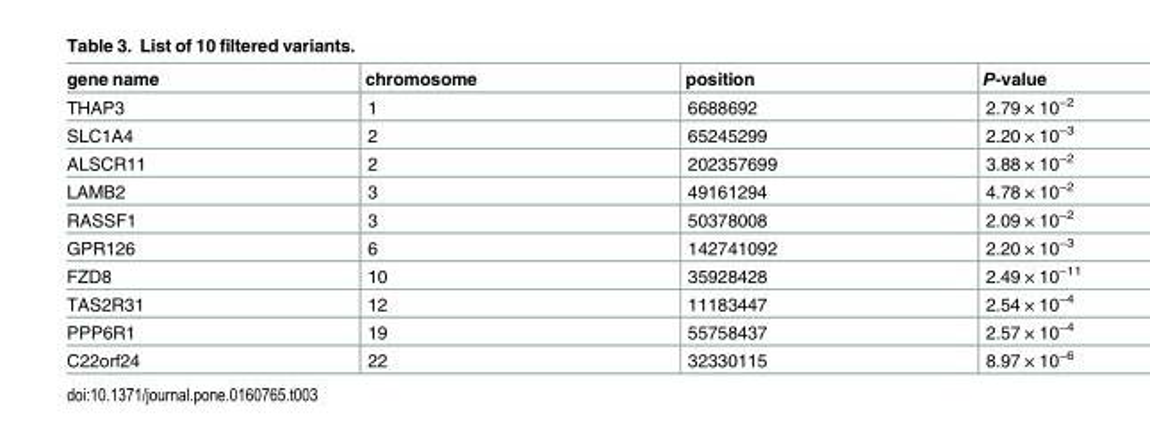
<table><thead><tr><td>gene name</td><td>chromosome</td><td>position</td><td>P-value</td></tr></thead><tbody><tr><td>THAP3</td><td>1</td><td>6688692</td><td>2.79 × 10<sup>−2</sup></td></tr><tr><td>SLC1A4</td><td>2</td><td>65245299</td><td>2.20 × 10<sup>−3</sup></td></tr><tr><td>ALSCR11</td><td>2</td><td>202357699</td><td>3.88 × 10<sup>−2</sup></td></tr><tr><td>LAMB2</td><td>3</td><td>49161294</td><td>4.78 × 10<sup>−2</sup></td></tr><tr><td>RASSF1</td><td>3</td><td>50378008</td><td>2.09 × 10<sup>−2</sup></td></tr><tr><td>GPR126</td><td>6</td><td>142741092</td><td>2.20 × 10<sup>−3</sup></td></tr><tr><td>FZD8</td><td>10</td><td>35928428</td><td>2.49 × 10<sup>−11</sup></td></tr><tr><td>TAS2R31</td><td>12</td><td>11183447</td><td>2.54 × 10<sup>−4</sup></td></tr><tr><td>PPP6R1</td><td>19</td><td>55758437</td><td>2.57 × 10<sup>−4</sup></td></tr><tr><td>C22orf24</td><td>22</td><td>32330115</td><td>8.97 × 10<sup>−6</sup></td></tr></tbody></table>